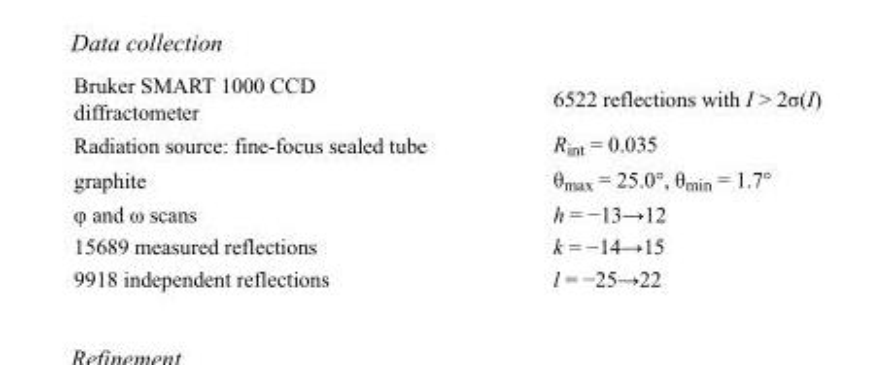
<table><tbody><tr><td>Bruker SMART 1000 CCD diffractometer</td><td>6522 reflections with I &gt; 2σ(I)</td></tr><tr><td>Radiation source: fine-focus sealed tube</td><td>R<sub>int</sub> = 0.035</td></tr><tr><td>graphite</td><td>θ<sub>max</sub> = 25.0°, θ<sub>min</sub> = 1.7°</td></tr><tr><td>φ and ω scans</td><td>h = −13→12</td></tr><tr><td>15689 measured reflections</td><td>k = −14→15</td></tr><tr><td>9918 independent reflections</td><td>l = −25→22</td></tr></tbody></table>